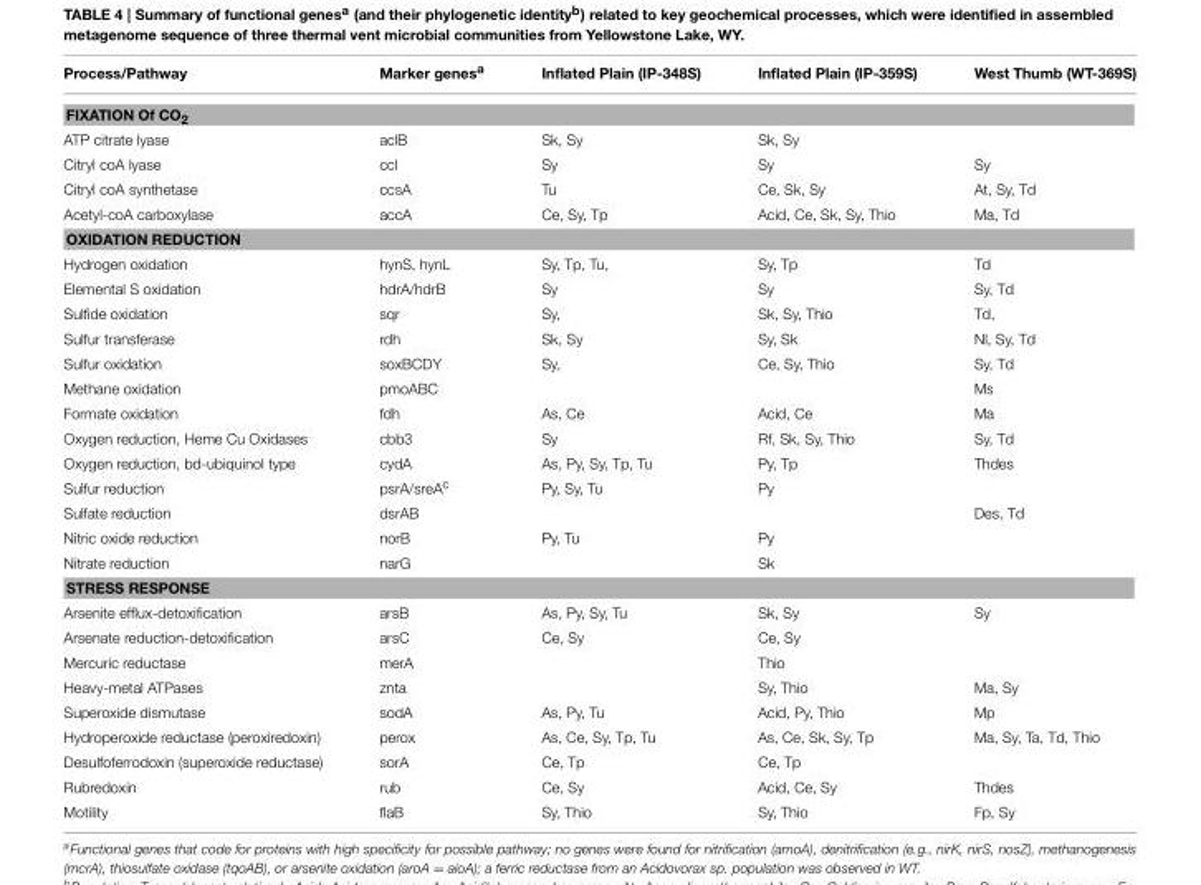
<table><thead><tr><td>Process/Pathway</td><td>Marker genes<sup>a</sup></td><td>Inflated Plain (IP-348S)</td><td>Inflated Plain (IP-359S)</td><td>West Thumb (WT-369S)</td></tr></thead><tbody><tr><td colspan="5">FIXATION Of CO<sub>2</sub></td></tr><tr><td>ATP citrate lyase</td><td>aclB</td><td>Sk, Sy</td><td>Sk, Sy</td><td></td></tr><tr><td>Citryl coA lyase</td><td>ccl</td><td>Sy</td><td>Sy</td><td>Sy</td></tr><tr><td>Citryl coA synthetase</td><td>ccsA</td><td>Tu</td><td>Ce, Sk, Sy</td><td>At, Sy, Td</td></tr><tr><td>Acetyl-coA carboxylase</td><td>accA</td><td>Ce, Sy, Tp</td><td>Acid, Ce, Sk, Sy, Thio</td><td>Ma, Td</td></tr><tr><td colspan="5">OXIDATION REDUCTION</td></tr><tr><td>Hydrogen oxidation</td><td>hynS, hynL</td><td>Sy, Tp, Tu,</td><td>Sy, Tp</td><td>Td</td></tr><tr><td>Elemental S oxidation</td><td>hdrA/hdrB</td><td>Sy</td><td>Sy</td><td>Sy, Td</td></tr><tr><td>Sulfide oxidation</td><td>sqr</td><td>Sy,</td><td>Sk, Sy, Thio</td><td>Td,</td></tr><tr><td>Sulfur transferase</td><td>rdh</td><td>Sk, Sy</td><td>Sy, Sk</td><td>Nl, Sy, Td</td></tr><tr><td>Sulfur oxidation</td><td>soxBCDY</td><td>Sy,</td><td>Ce, Sy, Thio</td><td>Sy, Td</td></tr><tr><td>Methane oxidation</td><td>pmoABC</td><td></td><td></td><td>Ms</td></tr><tr><td>Formate oxidation</td><td>fdh</td><td>As, Ce</td><td>Acid, Ce</td><td>Ma</td></tr><tr><td>Oxygen reduction, Heme Cu Oxidases</td><td>cbb3</td><td>Sy</td><td>Rf, Sk, Sy, Thio</td><td>Sy, Td</td></tr><tr><td>Oxygen reduction, bd-ubiquinol type</td><td>cydA</td><td>As, Py, Sy, Tp, Tu</td><td>Py, Tp</td><td>Thdes</td></tr><tr><td>Sulfur reduction</td><td>psrA/sreA<sup>c</sup></td><td>Py, Sy, Tu</td><td>Py</td><td></td></tr><tr><td>Sulfate reduction</td><td>dsrAB</td><td></td><td></td><td>Des, Td</td></tr><tr><td>Nitric oxide reduction</td><td>norB</td><td>Py, Tu</td><td>Py</td><td></td></tr><tr><td>Nitrate reduction</td><td>narG</td><td></td><td>Sk</td><td></td></tr><tr><td colspan="5">STRESS RESPONSE</td></tr><tr><td>Arsenite efflux-detoxification</td><td>arsB</td><td>As, Py, Sy, Tu</td><td>Sk, Sy</td><td>Sy</td></tr><tr><td>Arsenate reduction-detoxification</td><td>arsC</td><td>Ce, Sy</td><td>Ce, Sy</td><td></td></tr><tr><td>Mercuric reductase</td><td>merA</td><td></td><td>Thio</td><td></td></tr><tr><td>Heavy-metal ATPases</td><td>znta</td><td></td><td>Sy, Thio</td><td>Ma, Sy</td></tr><tr><td>Superoxide dismutase</td><td>sodA</td><td>As, Py, Tu</td><td>Acid, Py, Thio</td><td>Mp</td></tr><tr><td>Hydroperoxide reductase (peroxiredoxin)</td><td>perox</td><td>As, Ce, Sy, Tp, Tu</td><td>As, Ce, Sk, Sy, Tp</td><td>Ma, Sy, Ta, Td, Thio</td></tr><tr><td>Desulfoferrodoxin (superoxide reductase)</td><td>sorA</td><td>Ce, Tp</td><td>Ce, Tp</td><td></td></tr><tr><td>Rubredoxin</td><td>rub</td><td>Ce, Sy</td><td>Acid, Ce, Sy</td><td>Thdes</td></tr><tr><td>Motility</td><td>flaB</td><td>Sy, Thio</td><td>Sy, Thio</td><td>Fp, Sy</td></tr></tbody></table>